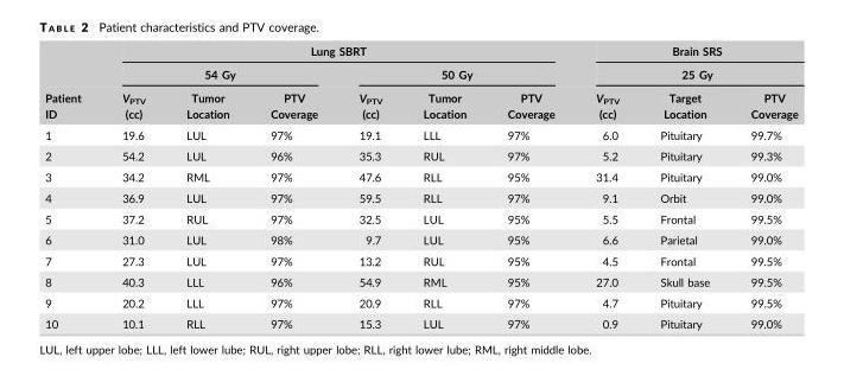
<table><thead><tr><td rowspan="3">Patient ID</td><td colspan="6">Lung SBRT</td><td rowspan="2" colspan="3">Brain SRS 25 Gy</td></tr><tr><td colspan="3">54 Gy</td><td colspan="3">50 Gy</td></tr><tr><td>V<sub>PTV</sub> (cc)</td><td>Tumor Location</td><td>PTV Coverage</td><td>V<sub>PTV</sub> (cc)</td><td>Tumor Location</td><td>PTV Coverage</td><td>V<sub>PTV</sub> (cc)</td><td>Target Location</td><td>PTV Coverage</td></tr></thead><tbody><tr><td>1</td><td>19.6</td><td>LUL</td><td>97%</td><td>19.1</td><td>LLL</td><td>97%</td><td>6.0</td><td>Pituitary</td><td>99.7%</td></tr><tr><td>2</td><td>54.2</td><td>LUL</td><td>96%</td><td>35.3</td><td>RUL</td><td>97%</td><td>5.2</td><td>Pituitary</td><td>99.3%</td></tr><tr><td>3</td><td>34.2</td><td>RML</td><td>97%</td><td>47.6</td><td>RLL</td><td>95%</td><td>31.4</td><td>Pituitary</td><td>99.0%</td></tr><tr><td>4</td><td>36.9</td><td>LUL</td><td>97%</td><td>59.5</td><td>RLL</td><td>97%</td><td>9.1</td><td>Orbit</td><td>99.0%</td></tr><tr><td>5</td><td>37.2</td><td>RUL</td><td>97%</td><td>32.5</td><td>LUL</td><td>95%</td><td>5.5</td><td>Frontal</td><td>99.5%</td></tr><tr><td>6</td><td>31.0</td><td>LUL</td><td>98%</td><td>9.7</td><td>LUL</td><td>95%</td><td>6.6</td><td>Parietal</td><td>99.0%</td></tr><tr><td>7</td><td>27.3</td><td>LUL</td><td>97%</td><td>13.2</td><td>RUL</td><td>95%</td><td>4.5</td><td>Frontal</td><td>99.5%</td></tr><tr><td>8</td><td>40.3</td><td>LLL</td><td>96%</td><td>54.9</td><td>RML</td><td>95%</td><td>27.0</td><td>Skull base</td><td>99.5%</td></tr><tr><td>9</td><td>20.2</td><td>LLL</td><td>97%</td><td>20.9</td><td>RLL</td><td>97%</td><td>4.7</td><td>Pituitary</td><td>99.5%</td></tr><tr><td>10</td><td>10.1</td><td>RLL</td><td>97%</td><td>15.3</td><td>LUL</td><td>97%</td><td>0.9</td><td>Pituitary</td><td>99.0%</td></tr></tbody></table>